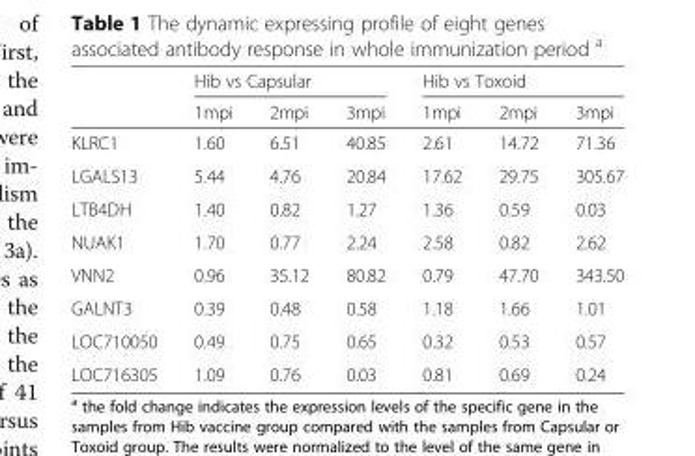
<table><thead><tr><td rowspan="2"></td><td colspan="3">Hib vs Capsular</td><td colspan="3">Hib vs Toxoid</td></tr><tr><td>1mpi</td><td>2mpi</td><td>3mpi</td><td>1mpi</td><td>2mpi</td><td>3mpi</td></tr></thead><tbody><tr><td>KLRC1</td><td>1.60</td><td>6.51</td><td>40.85</td><td>2.61</td><td>14.72</td><td>71.36</td></tr><tr><td>LGALS13</td><td>5.44</td><td>4.76</td><td>20.84</td><td>17.62</td><td>29.75</td><td>305.67</td></tr><tr><td>LTB4DH</td><td>1.40</td><td>0.82</td><td>1.27</td><td>1.36</td><td>0.59</td><td>0.03</td></tr><tr><td>NUAK1</td><td>1.70</td><td>0.77</td><td>2.24</td><td>2.58</td><td>0.82</td><td>2.62</td></tr><tr><td>VNN2</td><td>0.96</td><td>35.12</td><td>80.82</td><td>0.79</td><td>47.70</td><td>343.50</td></tr><tr><td>GALNT3</td><td>0.39</td><td>0.48</td><td>0.58</td><td>1.18</td><td>1.66</td><td>1.01</td></tr><tr><td>LOC710050</td><td>0.49</td><td>0.75</td><td>0.65</td><td>0.32</td><td>0.53</td><td>0.57</td></tr><tr><td>LOC716305</td><td>1.09</td><td>0.76</td><td>0.03</td><td>0.81</td><td>0.69</td><td>0.24</td></tr></tbody></table>